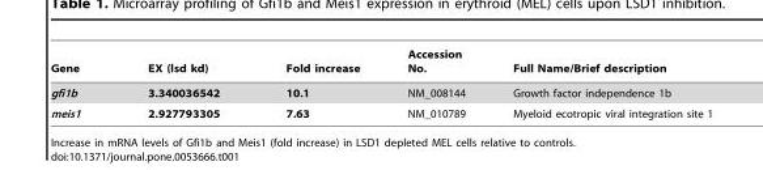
<table><thead><tr><td>Gene</td><td>EX (lsd kd)</td><td>Fold increase</td><td>Accession No.</td><td>Full Name/Brief description</td></tr></thead><tbody><tr><td>gfi1b</td><td>3.340036542</td><td>10.1</td><td>NM_008144</td><td>Growth factor independence 1b</td></tr><tr><td>meis1</td><td>2.927793305</td><td>7.63</td><td>NM_010789</td><td>Myeloid ecotropic viral integration site 1</td></tr></tbody></table>